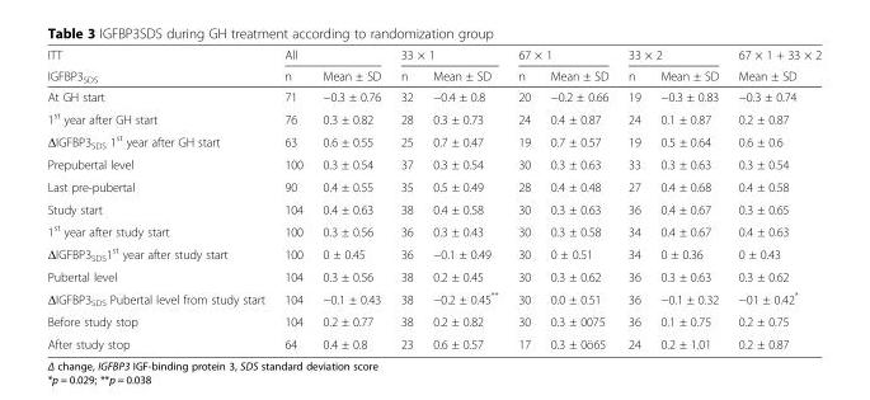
<table><thead><tr><td rowspan="2">ITT IGFBP3<sub>SDS</sub></td><td colspan="2">All</td><td colspan="2">33 × 1</td><td colspan="2">67 × 1</td><td colspan="2">33 × 2</td><td rowspan="2">67 × 1 + 33 × 2 Mean ± SD</td></tr><tr><td>n</td><td>Mean ± SD</td><td>n</td><td>Mean ± SD</td><td>n</td><td>Mean ± SD</td><td>n</td><td>Mean ± SD</td></tr></thead><tbody><tr><td>At GH start</td><td>71</td><td>−0.3 ± 0.76</td><td>32</td><td>−0.4 ± 0.8</td><td>20</td><td>−0.2 ± 0.66</td><td>19</td><td>−0.3 ± 0.83</td><td>−0.3 ± 0.74</td></tr><tr><td>1<sup>st</sup> year after GH start</td><td>76</td><td>0.3 ± 0.82</td><td>28</td><td>0.3 ± 0.73</td><td>24</td><td>0.4 ± 0.87</td><td>24</td><td>0.1 ± 0.87</td><td>0.2 ± 0.87</td></tr><tr><td>ΔIGFBP3<sub>SDS</sub> 1<sup>st</sup> year after GH start</td><td>63</td><td>0.6 ± 0.55</td><td>25</td><td>0.7 ± 0.47</td><td>19</td><td>0.7 ± 0.57</td><td>19</td><td>0.5 ± 0.64</td><td>0.6 ± 0.6</td></tr><tr><td>Prepubertal level</td><td>100</td><td>0.3 ± 0.54</td><td>37</td><td>0.3 ± 0.54</td><td>30</td><td>0.3 ± 0.63</td><td>33</td><td>0.3 ± 0.63</td><td>0.3 ± 0.54</td></tr><tr><td>Last pre-pubertal</td><td>90</td><td>0.4 ± 0.55</td><td>35</td><td>0.5 ± 0.49</td><td>28</td><td>0.4 ± 0.48</td><td>27</td><td>0.4 ± 0.68</td><td>0.4 ± 0.58</td></tr><tr><td>Study start</td><td>104</td><td>0.4 ± 0.63</td><td>38</td><td>0.4 ± 0.58</td><td>30</td><td>0.3 ± 0.63</td><td>36</td><td>0.4 ± 0.67</td><td>0.3 ± 0.65</td></tr><tr><td>1<sup>st</sup> year after study start</td><td>100</td><td>0.3 ± 0.56</td><td>36</td><td>0.3 ± 0.43</td><td>30</td><td>0.3 ± 0.58</td><td>34</td><td>0.4 ± 0.67</td><td>0.4 ± 0.63</td></tr><tr><td>ΔIGFBP3<sub>SDS</sub>1<sup>st</sup> year after study start</td><td>100</td><td>0 ± 0.45</td><td>36</td><td>−0.1 ± 0.49</td><td>30</td><td>0 ± 0.51</td><td>34</td><td>0 ± 0.36</td><td>0 ± 0.43</td></tr><tr><td>Pubertal level</td><td>104</td><td>0.3 ± 0.56</td><td>38</td><td>0.2 ± 0.45</td><td>30</td><td>0.3 ± 0.62</td><td>36</td><td>0.3 ± 0.63</td><td>0.3 ± 0.62</td></tr><tr><td>ΔIGFBP3<sub>SDS</sub> Pubertal level from study start</td><td>104</td><td>−0.1 ± 0.43</td><td>38</td><td>−0.2 ± 0.45**</td><td>30</td><td>0.0 ± 0.51</td><td>36</td><td>−0.1 ± 0.32</td><td>−01 ± 0.42*</td></tr><tr><td>Before study stop</td><td>104</td><td>0.2 ± 0.77</td><td>38</td><td>0.2 ± 0.82</td><td>30</td><td>0.3 ± 0075</td><td>36</td><td>0.1 ± 0.75</td><td>0.2 ± 0.75</td></tr><tr><td>After study stop</td><td>64</td><td>0.4 ± 0.8</td><td>23</td><td>0.6 ± 0.57</td><td>17</td><td>0.3 ± 0ö65</td><td>24</td><td>0.2 ± 1.01</td><td>0.2 ± 0.87</td></tr></tbody></table>